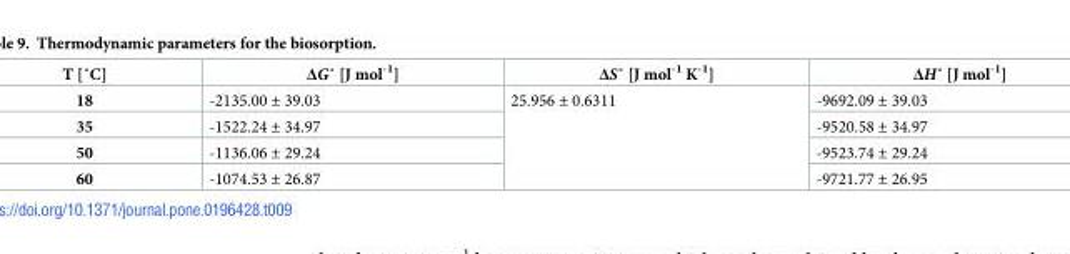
<table><thead><tr><td>T [˚C]</td><td>ΔG˚ [J mol-1]</td><td>ΔS˚ [J mol-1 K-1]</td><td>ΔH˚ [J mol-1]</td></tr></thead><tbody><tr><td>18</td><td>-2135.00 ± 39.03</td><td rowspan="4">25.956 ± 0.6311</td><td>-9692.09 ± 39.03</td></tr><tr><td>35</td><td>-1522.24 ± 34.97</td><td>-9520.58 ± 34.97</td></tr><tr><td>50</td><td>-1136.06 ± 29.24</td><td>-9523.74 ± 29.24</td></tr><tr><td>60</td><td>-1074.53 ± 26.87</td><td>-9721.77 ± 26.95</td></tr></tbody></table>